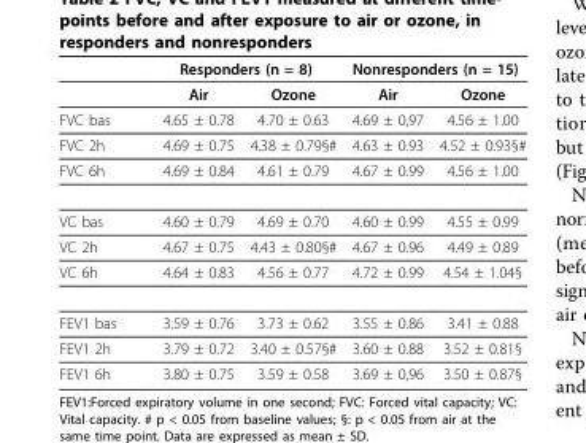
<table><thead><tr><td rowspan="2"></td><td colspan="2">Responders (n = 8)</td><td colspan="2">Nonresponders (n = 15)</td></tr><tr><td>Air</td><td>Ozone</td><td>Air</td><td>Ozone</td></tr></thead><tbody><tr><td>FVC bas</td><td>4.65 ± 0.78</td><td>4.70 ± 0.63</td><td>4.69 ± 0,97</td><td>4.56 ± 1.00</td></tr><tr><td>FVC 2h</td><td>4.69 ± 0.75</td><td>4.38 ± 0.79§#</td><td>4.63 ± 0.93</td><td>4.52 ± 0.93§#</td></tr><tr><td>FVC 6h</td><td>4.69 ± 0.84</td><td>4.61 ± 0.79</td><td>4.67 ± 0.99</td><td>4.56 ± 1.00</td></tr><tr><td>VC bas</td><td>4.60 ± 0.79</td><td>4.69 ± 0.70</td><td>4.60 ± 0.99</td><td>4.55 ± 0.99</td></tr><tr><td>VC 2h</td><td>4.67 ± 0.75</td><td>4.43 ± 0.80§#</td><td>4.67 ± 0.96</td><td>4.49 ± 0.89</td></tr><tr><td>VC 6h</td><td>4.64 ± 0.83</td><td>4.56 ± 0.77</td><td>4.72 ± 0.99</td><td>4.54 ± 1.04§</td></tr><tr><td>FEV1 bas</td><td>3.59 ± 0.76</td><td>3.73 ± 0.62</td><td>3.55 ± 0.86</td><td>3.41 ± 0.88</td></tr><tr><td>FEV1 2h</td><td>3.79 ± 0.72</td><td>3.40 ± 0.57§#</td><td>3.60 ± 0.88</td><td>3.52 ± 0.81§</td></tr><tr><td>FEV1 6h</td><td>3.80 ± 0.75</td><td>3.59 ± 0.58</td><td>3.69 ± 0,96</td><td>3.50 ± 0.87§</td></tr></tbody></table>